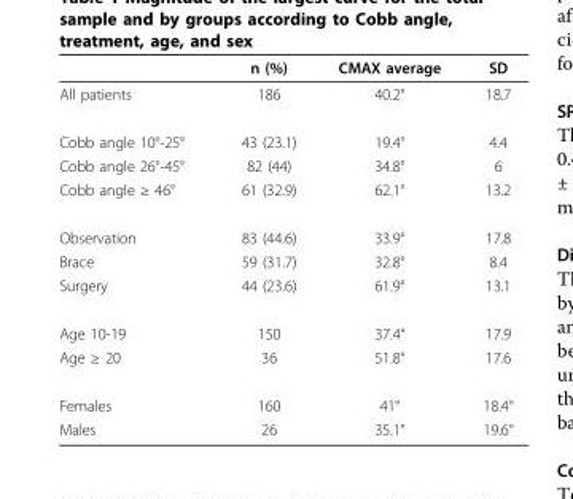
<table><thead><tr><td></td><td>n (%)</td><td>CMAX average</td><td>SD</td></tr></thead><tbody><tr><td>All patients</td><td>186</td><td>40.2°</td><td>18.7</td></tr><tr><td>Cobb angle 10°-25°</td><td>43 (23.1)</td><td>19.4°</td><td>4.4</td></tr><tr><td>Cobb angle 26°-45°</td><td>82 (44)</td><td>34.8°</td><td>6</td></tr><tr><td>Cobb angle ≥ 46°</td><td>61 (32.9)</td><td>62.1°</td><td>13.2</td></tr><tr><td>Observation</td><td>83 (44.6)</td><td>33.9°</td><td>17.8</td></tr><tr><td>Brace</td><td>59 (31.7)</td><td>32.8°</td><td>8.4</td></tr><tr><td>Surgery</td><td>44 (23.6)</td><td>61.9°</td><td>13.1</td></tr><tr><td>Age 10-19</td><td>150</td><td>37.4°</td><td>17.9</td></tr><tr><td>Age ≥ 20</td><td>36</td><td>51.8°</td><td>17.6</td></tr><tr><td>Females</td><td>160</td><td>41°</td><td>18.4°</td></tr><tr><td>Males</td><td>26</td><td>35.1°</td><td>19.6°</td></tr></tbody></table>